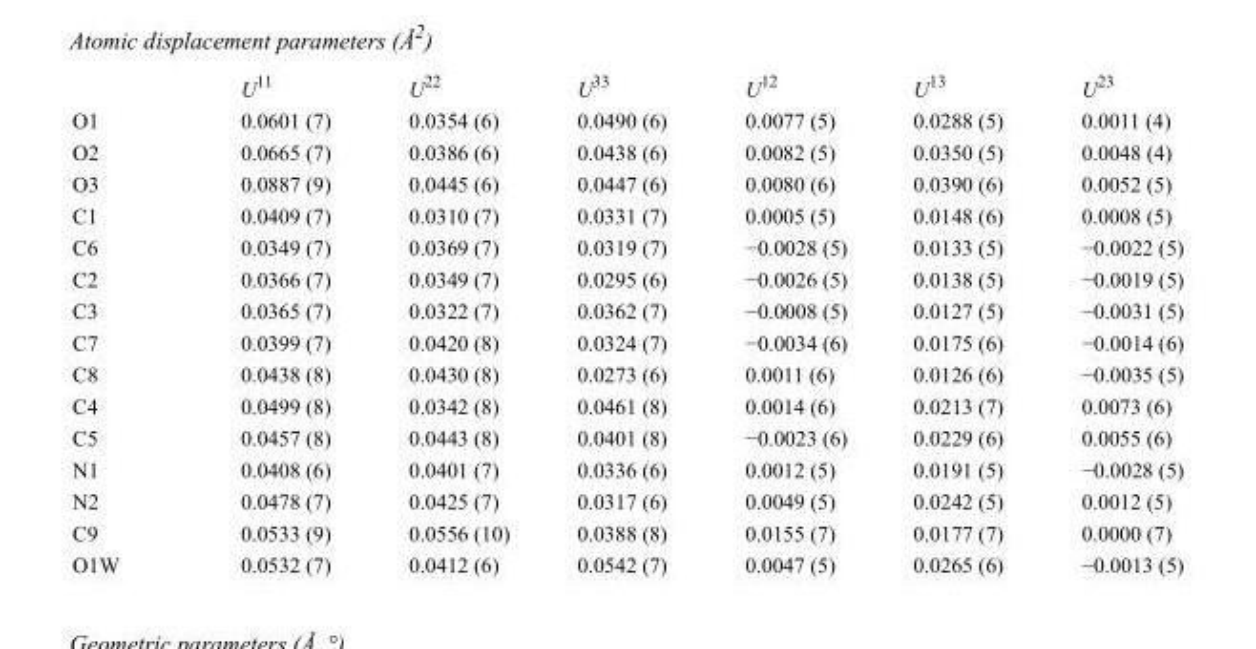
<table><thead><tr><td></td><td>U<sup>11</sup></td><td>U<sup>22</sup></td><td>U<sup>33</sup></td><td>U<sup>12</sup></td><td>U<sup>13</sup></td><td>U<sup>23</sup></td></tr></thead><tbody><tr><td>O1</td><td>0.0601 (7)</td><td>0.0354 (6)</td><td>0.0490 (6)</td><td>0.0077 (5)</td><td>0.0288 (5)</td><td>0.0011 (4)</td></tr><tr><td>O2</td><td>0.0665 (7)</td><td>0.0386 (6)</td><td>0.0438 (6)</td><td>0.0082 (5)</td><td>0.0350 (5)</td><td>0.0048 (4)</td></tr><tr><td>O3</td><td>0.0887 (9)</td><td>0.0445 (6)</td><td>0.0447 (6)</td><td>0.0080 (6)</td><td>0.0390 (6)</td><td>0.0052 (5)</td></tr><tr><td>C1</td><td>0.0409 (7)</td><td>0.0310 (7)</td><td>0.0331 (7)</td><td>0.0005 (5)</td><td>0.0148 (6)</td><td>0.0008 (5)</td></tr><tr><td>C6</td><td>0.0349 (7)</td><td>0.0369 (7)</td><td>0.0319 (7)</td><td>−0.0028 (5)</td><td>0.0133 (5)</td><td>−0.0022 (5)</td></tr><tr><td>C2</td><td>0.0366 (7)</td><td>0.0349 (7)</td><td>0.0295 (6)</td><td>−0.0026 (5)</td><td>0.0138 (5)</td><td>−0.0019 (5)</td></tr><tr><td>C3</td><td>0.0365 (7)</td><td>0.0322 (7)</td><td>0.0362 (7)</td><td>−0.0008 (5)</td><td>0.0127 (5)</td><td>−0.0031 (5)</td></tr><tr><td>C7</td><td>0.0399 (7)</td><td>0.0420 (8)</td><td>0.0324 (7)</td><td>−0.0034 (6)</td><td>0.0175 (6)</td><td>−0.0014 (6)</td></tr><tr><td>C8</td><td>0.0438 (8)</td><td>0.0430 (8)</td><td>0.0273 (6)</td><td>0.0011 (6)</td><td>0.0126 (6)</td><td>−0.0035 (5)</td></tr><tr><td>C4</td><td>0.0499 (8)</td><td>0.0342 (8)</td><td>0.0461 (8)</td><td>0.0014 (6)</td><td>0.0213 (7)</td><td>0.0073 (6)</td></tr><tr><td>C5</td><td>0.0457 (8)</td><td>0.0443 (8)</td><td>0.0401 (8)</td><td>−0.0023 (6)</td><td>0.0229 (6)</td><td>0.0055 (6)</td></tr><tr><td>N1</td><td>0.0408 (6)</td><td>0.0401 (7)</td><td>0.0336 (6)</td><td>0.0012 (5)</td><td>0.0191 (5)</td><td>−0.0028 (5)</td></tr><tr><td>N2</td><td>0.0478 (7)</td><td>0.0425 (7)</td><td>0.0317 (6)</td><td>0.0049 (5)</td><td>0.0242 (5)</td><td>0.0012 (5)</td></tr><tr><td>C9</td><td>0.0533 (9)</td><td>0.0556 (10)</td><td>0.0388 (8)</td><td>0.0155 (7)</td><td>0.0177 (7)</td><td>0.0000 (7)</td></tr><tr><td>O1W</td><td>0.0532 (7)</td><td>0.0412 (6)</td><td>0.0542 (7)</td><td>0.0047 (5)</td><td>0.0265 (6)</td><td>−0.0013 (5)</td></tr></tbody></table>